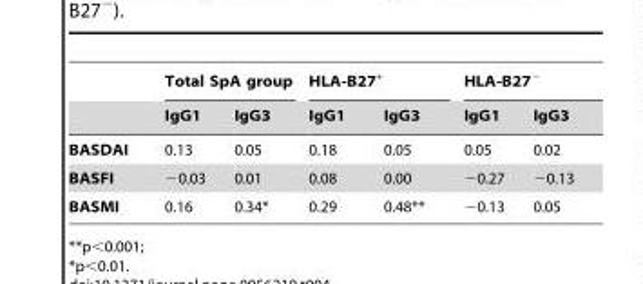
<table><thead><tr><td rowspan="2"></td><td colspan="2">Total SpA group</td><td colspan="2">HLA-B27<sup>+</sup></td><td colspan="2">HLA-B27<sup>−</sup></td></tr><tr><td>IgG1</td><td>IgG3</td><td>IgG1</td><td>IgG3</td><td>IgG1</td><td>IgG3</td></tr></thead><tbody><tr><td>BASDAI</td><td>0.13</td><td>0.05</td><td>0.18</td><td>0.05</td><td>0.05</td><td>0.02</td></tr><tr><td>BASFI</td><td>−0.03</td><td>0.01</td><td>0.08</td><td>0.00</td><td>−0.27</td><td>−0.13</td></tr><tr><td>BASMI</td><td>0.16</td><td>0.34*</td><td>0.29</td><td>0.48**</td><td>−0.13</td><td>0.05</td></tr></tbody></table>